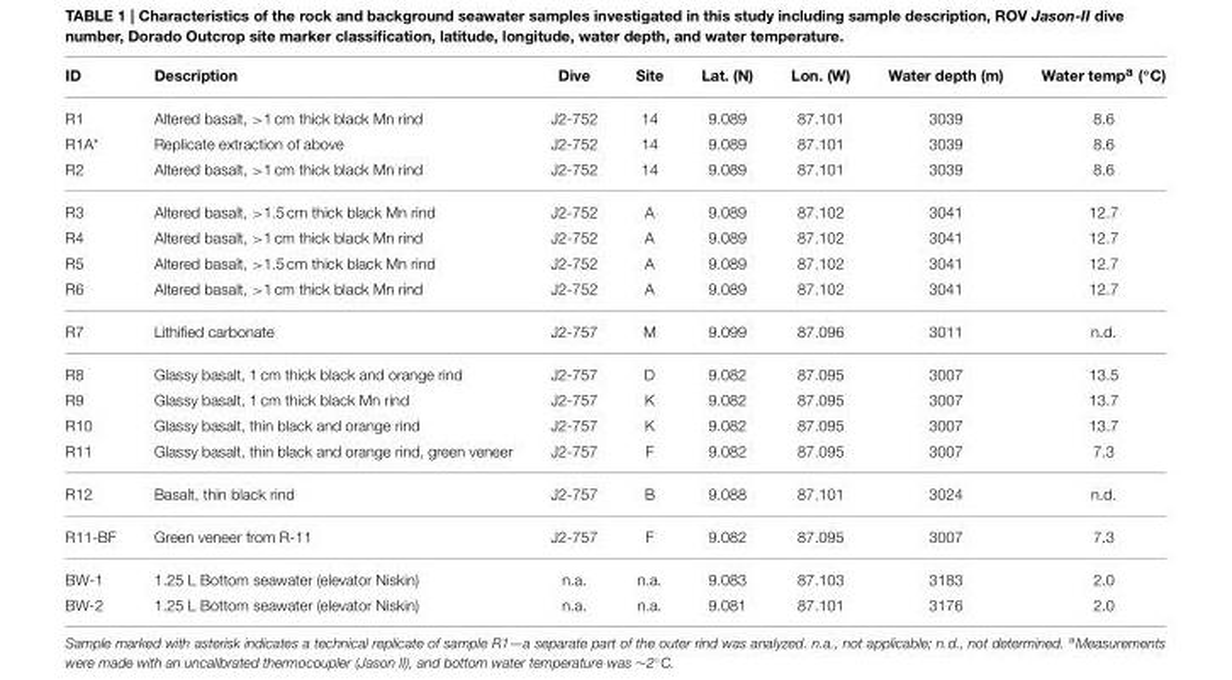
<table><thead><tr><td>ID</td><td>Description</td><td>Dive</td><td>Site</td><td>Lat. (N)</td><td>Lon. (W)</td><td>Water depth (m)</td><td>Water tempa (◦C)</td></tr></thead><tbody><tr><td>R1</td><td>Altered basalt, &gt;1 cm thick black Mn rind</td><td>J2-752</td><td>14</td><td>9.089</td><td>87.101</td><td>3039</td><td>8.6</td></tr><tr><td>R1A*</td><td>Replicate extraction of above</td><td>J2-752</td><td>14</td><td>9.089</td><td>87.101</td><td>3039</td><td>8.6</td></tr><tr><td>R2</td><td>Altered basalt, &gt;1 cm thick black Mn rind</td><td>J2-752</td><td>14</td><td>9.089</td><td>87.101</td><td>3039</td><td>8.6</td></tr><tr><td>R3</td><td>Altered basalt, &gt;1.5 cm thick black Mn rind</td><td>J2-752</td><td>A</td><td>9.089</td><td>87.102</td><td>3041</td><td>12.7</td></tr><tr><td>R4</td><td>Altered basalt, &gt;1 cm thick black Mn rind</td><td>J2-752</td><td>A</td><td>9.089</td><td>87.102</td><td>3041</td><td>12.7</td></tr><tr><td>R5</td><td>Altered basalt, &gt;1.5 cm thick black Mn rind</td><td>J2-752</td><td>A</td><td>9.089</td><td>87.102</td><td>3041</td><td>12.7</td></tr><tr><td>R6</td><td>Altered basalt, &gt;1 cm thick black Mn rind</td><td>J2-752</td><td>A</td><td>9.089</td><td>87.102</td><td>3041</td><td>12.7</td></tr><tr><td>R7</td><td>Lithified carbonate</td><td>J2-757</td><td>M</td><td>9.099</td><td>87.096</td><td>3011</td><td>n.d.</td></tr><tr><td>R8</td><td>Glassy basalt, 1 cm thick black and orange rind</td><td>J2-757</td><td>D</td><td>9.082</td><td>87.095</td><td>3007</td><td>13.5</td></tr><tr><td>R9</td><td>Glassy basalt, 1 cm thick black Mn rind</td><td>J2-757</td><td>K</td><td>9.082</td><td>87.095</td><td>3007</td><td>13.7</td></tr><tr><td>R10</td><td>Glassy basalt, thin black and orange rind</td><td>J2-757</td><td>K</td><td>9.082</td><td>87.095</td><td>3007</td><td>13.7</td></tr><tr><td>R11</td><td>Glassy basalt, thin black and orange rind, green veneer</td><td>J2-757</td><td>F</td><td>9.082</td><td>87.095</td><td>3007</td><td>7.3</td></tr><tr><td>R12</td><td>Basalt, thin black rind</td><td>J2-757</td><td>B</td><td>9.088</td><td>87.101</td><td>3024</td><td>n.d.</td></tr><tr><td>R11-BF</td><td>Green veneer from R-11</td><td>J2-757</td><td>F</td><td>9.082</td><td>87.095</td><td>3007</td><td>7.3</td></tr><tr><td>BW-1</td><td>1.25 L Bottom seawater (elevator Niskin)</td><td>n.a.</td><td>n.a.</td><td>9.083</td><td>87.103</td><td>3183</td><td>2.0</td></tr><tr><td>BW-2</td><td>1.25 L Bottom seawater (elevator Niskin)</td><td>n.a.</td><td>n.a.</td><td>9.081</td><td>87.101</td><td>3176</td><td>2.0</td></tr></tbody></table>